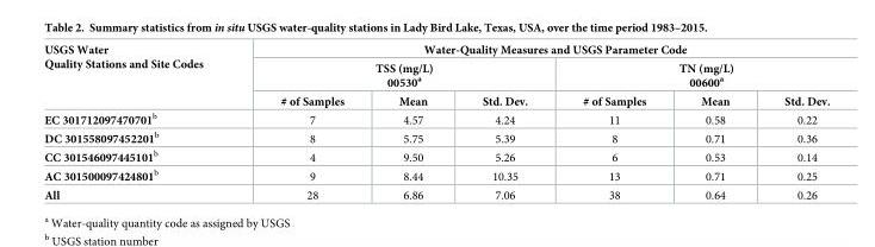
<table><thead><tr><td rowspan="3">USGS Water Quality Stations and Site Codes</td><td colspan="6">Water-Quality Measures and USGS Parameter Code</td></tr><tr><td colspan="3">TSS (mg/L) 00530<sup>a</sup></td><td colspan="3">TN (mg/L) 00600<sup>a</sup></td></tr><tr><td># of Samples</td><td>Mean</td><td>Std. Dev.</td><td># of Samples</td><td>Mean</td><td>Std. Dev.</td></tr></thead><tbody><tr><td>EC 301712097470701<sup>b</sup></td><td>7</td><td>4.57</td><td>4.24</td><td>11</td><td>0.58</td><td>0.22</td></tr><tr><td>DC 301558097452201<sup>b</sup></td><td>8</td><td>5.75</td><td>5.39</td><td>8</td><td>0.71</td><td>0.36</td></tr><tr><td>CC 301546097445101<sup>b</sup></td><td>4</td><td>9.50</td><td>5.26</td><td>6</td><td>0.53</td><td>0.14</td></tr><tr><td>AC 301500097424801<sup>b</sup></td><td>9</td><td>8.44</td><td>10.35</td><td>13</td><td>0.71</td><td>0.25</td></tr><tr><td>All</td><td>28</td><td>6.86</td><td>7.06</td><td>38</td><td>0.64</td><td>0.26</td></tr></tbody></table>